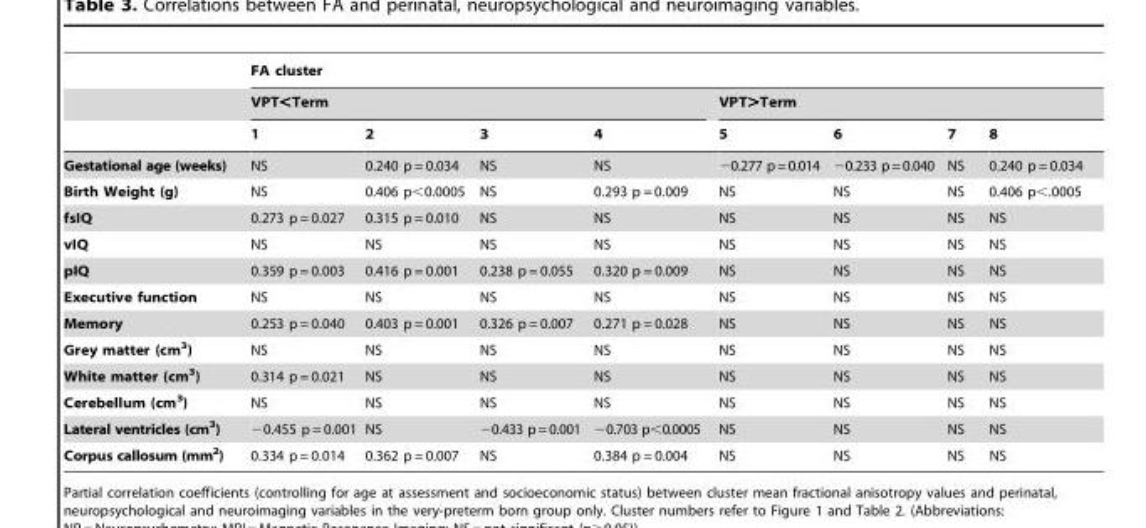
<table><thead><tr><td rowspan="3"></td><td colspan="8">FA cluster</td></tr><tr><td colspan="4">VPT&lt;Term</td><td colspan="4">VPT&gt;Term</td></tr><tr><td>1</td><td>2</td><td>3</td><td>4</td><td>5</td><td>6</td><td>7</td><td>8</td></tr></thead><tbody><tr><td>Gestational age (weeks)</td><td>NS</td><td>0.240 p = 0.034</td><td>NS</td><td>NS</td><td>−0.277 p=0.014</td><td>−0.233 p=0.040</td><td>NS</td><td>0.240 p = 0.034</td></tr><tr><td>Birth Weight (g)</td><td>NS</td><td>0.406 p&lt;0.0005</td><td>NS</td><td>0.293 p = 0.009</td><td>NS</td><td>NS</td><td>NS</td><td>0.406 p&lt;.0005</td></tr><tr><td>fsIQ</td><td>0.273 p = 0.027</td><td>0.315 p = 0.010</td><td>NS</td><td>NS</td><td>NS</td><td>NS</td><td>NS</td><td>NS</td></tr><tr><td>vIQ</td><td>NS</td><td>NS</td><td>NS</td><td>NS</td><td>NS</td><td>NS</td><td>NS</td><td>NS</td></tr><tr><td>pIQ</td><td>0.359 p = 0.003</td><td>0.416 p = 0.001</td><td>0.238 p = 0.055</td><td>0.320 p = 0.009</td><td>NS</td><td>NS</td><td>NS</td><td>NS</td></tr><tr><td>Executive function</td><td>NS</td><td>NS</td><td>NS</td><td>NS</td><td>NS</td><td>NS</td><td>NS</td><td>NS</td></tr><tr><td>Memory</td><td>0.253 p = 0.040</td><td>0.403 p = 0.001</td><td>0.326 p = 0.007</td><td>0.271 p = 0.028</td><td>NS</td><td>NS</td><td>NS</td><td>NS</td></tr><tr><td>Grey matter (cm<sup>3</sup>)</td><td>NS</td><td>NS</td><td>NS</td><td>NS</td><td>NS</td><td>NS</td><td>NS</td><td>NS</td></tr><tr><td>White matter (cm<sup>3</sup>)</td><td>0.314 p = 0.021</td><td>NS</td><td>NS</td><td>NS</td><td>NS</td><td>NS</td><td>NS</td><td>NS</td></tr><tr><td>Cerebellum (cm<sup>3</sup>)</td><td>NS</td><td>NS</td><td>NS</td><td>NS</td><td>NS</td><td>NS</td><td>NS</td><td>NS</td></tr><tr><td>Lateral ventricles (cm<sup>3</sup>)</td><td>−0.455 p = 0.001</td><td>NS</td><td>−0.433 p=0.001</td><td>−0.703 p&lt;0.0005</td><td>NS</td><td>NS</td><td>NS</td><td>NS</td></tr><tr><td>Corpus callosum (mm<sup>2</sup>)</td><td>0.334 p = 0.014</td><td>0.362 p = 0.007</td><td>NS</td><td>0.384 p = 0.004</td><td>NS</td><td>NS</td><td>NS</td><td>NS</td></tr></tbody></table>